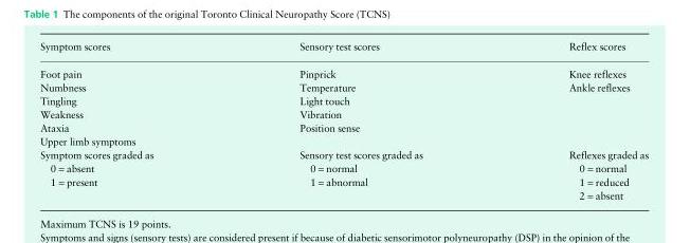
<table><thead><tr><td>Symptom scores</td><td>Sensory test scores</td><td>Reflex scores</td></tr></thead><tbody><tr><td>Foot pain</td><td>Pinprick</td><td>Knee reflexes</td></tr><tr><td>Numbness</td><td>Temperature</td><td>Ankle reflexes</td></tr><tr><td>Tingling</td><td>Light touch</td><td></td></tr><tr><td>Weakness</td><td>Vibration</td><td></td></tr><tr><td>Ataxia</td><td>Position sense</td><td></td></tr><tr><td colspan="3">Upper limb symptoms</td></tr><tr><td>Symptom scores graded as</td><td>Sensory test scores graded as</td><td>Reflexes graded as</td></tr><tr><td>0 = absent</td><td>0 = normal</td><td>0 = normal</td></tr><tr><td rowspan="2">1 = present</td><td>1 = abnormal</td><td>1 = reduced</td></tr><tr><td></td><td>2 = absent</td></tr></tbody></table>